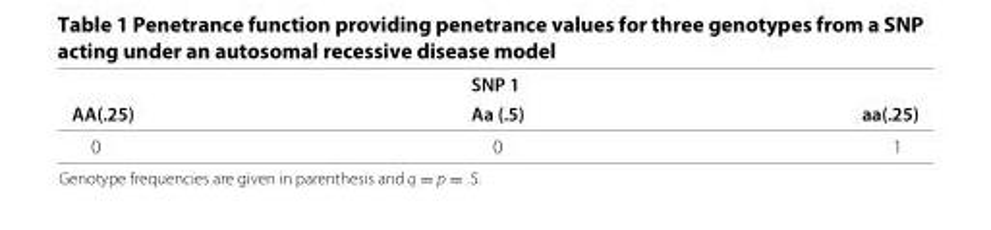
<table><thead><tr><td colspan="3">SNP 1</td></tr><tr><td>AA(.25)</td><td>Aa (.5)</td><td>aa(.25)</td></tr></thead><tbody><tr><td>0</td><td>0</td><td>1</td></tr></tbody></table>